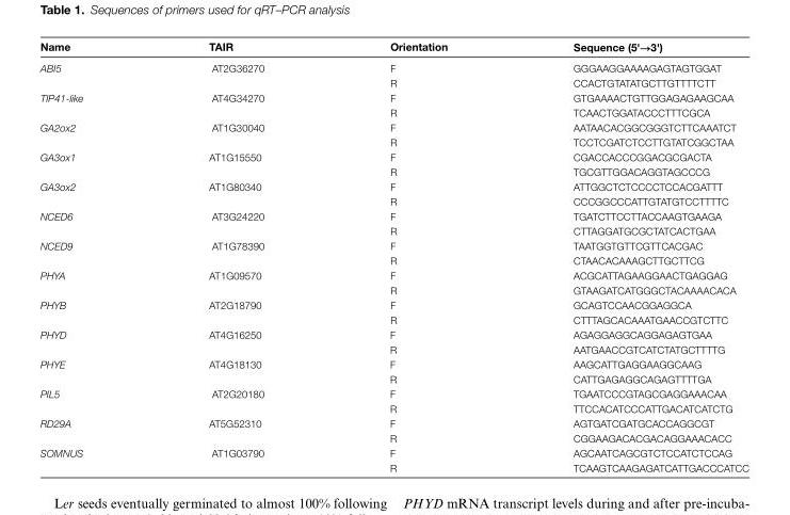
<table><thead><tr><td>Name</td><td>TAIR</td><td>Orientation</td><td>Sequence (5&#x27;→3&#x27;)</td></tr></thead><tbody><tr><td>ABI5</td><td>AT2G36270</td><td>F R</td><td>GGGAAGGAAAAGAGTAGTGGAT CCACTGTATATGCTTGTTTTCTT</td></tr><tr><td>TIP41-like</td><td>AT4G34270</td><td>F R</td><td>GTGAAAACTGTTGGAGAGAAGCAA TCAACTGGATACCCTTTCGCA</td></tr><tr><td>GA2ox2</td><td>AT1G30040</td><td>F R</td><td>AATAACACGGCGGGTCTTCAAATCT TCCTCGATCTCCTTGTATCGGCTAA</td></tr><tr><td>GA3ox1</td><td>AT1G15550</td><td>F R</td><td>CGACCACCCGGACGCGACTA TGCGTTGGACAGGTAGCCCG</td></tr><tr><td>GA3ox2</td><td>AT1G80340</td><td>F R</td><td>ATTGGCTCTCCCCTCCACGATTT CCCGGCCCATTGTATGTCCTTTTC</td></tr><tr><td>NCED6</td><td>AT3G24220</td><td>F R</td><td>TGATCTTCCTTACCAAGTGAAGA CTTAGGATGCGCTATCACTGAA</td></tr><tr><td>NCED9</td><td>AT1G78390</td><td>F R</td><td>TAATGGTGTTCGTTCACGAC CTAACACAAAGCTTGCTTCG</td></tr><tr><td>PHYA</td><td>AT1G09570</td><td>F R</td><td>ACGCATTAGAAGGAACTGAGGAG GTAAGATCATGGGCTACAAAACACA</td></tr><tr><td>PHYB</td><td>AT2G18790</td><td>F R</td><td>GCAGTCCAACGGAGGCA CTTTAGCACAAATGAACCGTCTTC</td></tr><tr><td>PHYD</td><td>AT4G16250</td><td>F R</td><td>AGAGGAGGCAGGAGAGTGAA AATGAACCGTCATCTATGCTTTTG</td></tr><tr><td>PHYE</td><td>AT4G18130</td><td>F R</td><td>AAGCATTGAGGAAGGCAAG CATTGAGAGGCAGAGTTTTGA</td></tr><tr><td>PIL5</td><td>AT2G20180</td><td>F R</td><td>TGAATCCCGTAGCGAGGAAACAA TTCCACATCCCATTGACATCATCTG</td></tr><tr><td>RD29A</td><td>AT5G52310</td><td>F R</td><td>AGTGATCGATGCACCAGGCGT CGGAAGACACGACAGGAAACACC</td></tr><tr><td>SOMNUS</td><td>AT1G03790</td><td>F R</td><td>AGCAATCAGCGTCTCCATCTCCAG TCAAGTCAAGAGATCATTGACCCATCC</td></tr></tbody></table>